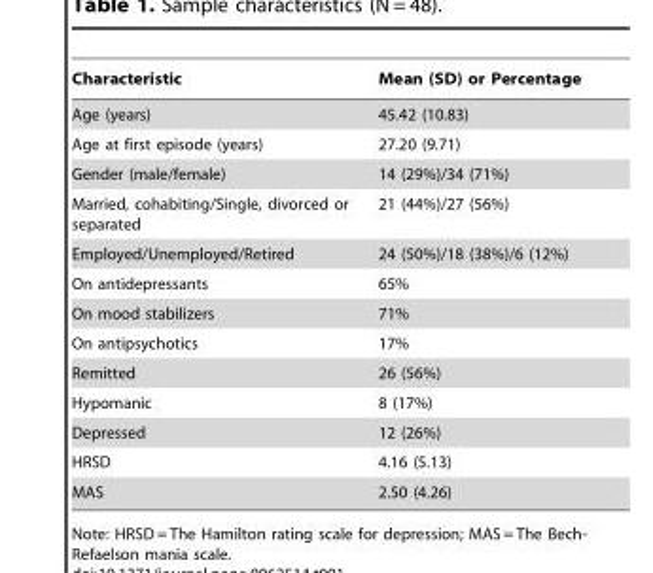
<table><thead><tr><td>Characteristic</td><td>Mean (SD) or Percentage</td></tr></thead><tbody><tr><td>Age (years)</td><td>45.42 (10.83)</td></tr><tr><td>Age at first episode (years)</td><td>27.20 (9.71)</td></tr><tr><td>Gender (male/female)</td><td>14 (29%)/34 (71%)</td></tr><tr><td>Married, cohabiting/Single, divorced or separated</td><td>21 (44%)/27 (56%)</td></tr><tr><td>Employed/Unemployed/Retired</td><td>24 (50%)/18 (38%)/6 (12%)</td></tr><tr><td>On antidepressants</td><td>65%</td></tr><tr><td>On mood stabilizers</td><td>71%</td></tr><tr><td>On antipsychotics</td><td>17%</td></tr><tr><td>Remitted</td><td>26 (56%)</td></tr><tr><td>Hypomanic</td><td>8 (17%)</td></tr><tr><td>Depressed</td><td>12 (26%)</td></tr><tr><td>HRSD</td><td>4.16 (5.13)</td></tr><tr><td>MAS</td><td>2.50 (4.26)</td></tr></tbody></table>